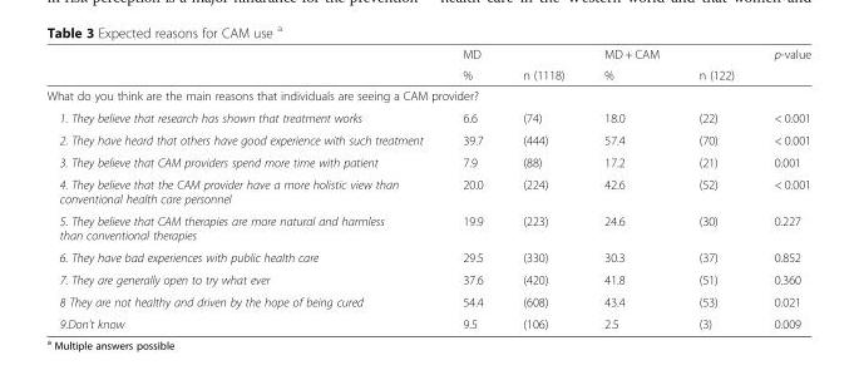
<table><thead><tr><td rowspan="2"></td><td rowspan="2">MD %</td><td rowspan="2">n (1118)</td><td rowspan="2">MD + CAM %</td><td rowspan="2">n (122)</td><td rowspan="2">p-value</td></tr><tr></tr></thead><tbody><tr><td colspan="6">What do you think are the main reasons that individuals are seeing a CAM provider?</td></tr><tr><td>1. They believe that research has shown that treatment works</td><td>6.6</td><td>(74)</td><td>18.0</td><td>(22)</td><td>&lt; 0.001</td></tr><tr><td>2. They have heard that others have good experience with such treatment</td><td>39.7</td><td>(444)</td><td>57.4</td><td>(70)</td><td>&lt; 0.001</td></tr><tr><td>3. They believe that CAM providers spend more time with patient</td><td>7.9</td><td>(88)</td><td>17.2</td><td>(21)</td><td>0.001</td></tr><tr><td>4. They believe that the CAM provider have a more holistic view than conventional health care personnel</td><td>20.0</td><td>(224)</td><td>42.6</td><td>(52)</td><td>&lt; 0.001</td></tr><tr><td>5. They believe that CAM therapies are more natural and harmless than conventional therapies</td><td>19.9</td><td>(223)</td><td>24.6</td><td>(30)</td><td>0.227</td></tr><tr><td>6. They have bad experiences with public health care</td><td>29.5</td><td>(330)</td><td>30.3</td><td>(37)</td><td>0.852</td></tr><tr><td>7. They are generally open to try what ever</td><td>37.6</td><td>(420)</td><td>41.8</td><td>(51)</td><td>0.360</td></tr><tr><td>8 They are not healthy and driven by the hope of being cured</td><td>54.4</td><td>(608)</td><td>43.4</td><td>(53)</td><td>0.021</td></tr><tr><td>9.Don’t know</td><td>9.5</td><td>(106)</td><td>2.5</td><td>(3)</td><td>0.009</td></tr></tbody></table>